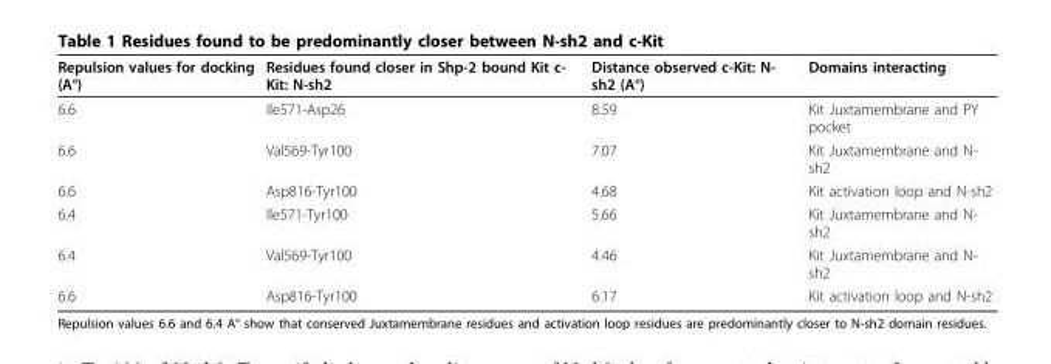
<table><thead><tr><td>Repulsion values for docking (A°)</td><td>Residues found closer in Shp-2 bound Kit c- Kit: N-sh2</td><td>Distance observed c-Kit: N- sh2 (A°)</td><td>Domains interacting</td></tr></thead><tbody><tr><td>6.6</td><td>Ile571-Asp26</td><td>8.59</td><td>Kit Juxtamembrane and PY pocket</td></tr><tr><td>6.6</td><td>Val569-Tyr100</td><td>7.07</td><td>Kit Juxtamembrane and N- sh2</td></tr><tr><td>6.6</td><td>Asp816-Tyr100</td><td>4.68</td><td>Kit activation loop and N-sh2</td></tr><tr><td>6.4</td><td>Ile571-Tyr100</td><td>5.66</td><td>Kit Juxtamembrane and N- sh2</td></tr><tr><td>6.4</td><td>Val569-Tyr100</td><td>4.46</td><td>Kit Juxtamembrane and N- sh2</td></tr><tr><td>6.6</td><td>Asp816-Tyr100</td><td>6.17</td><td>Kit activation loop and N-sh2</td></tr></tbody></table>